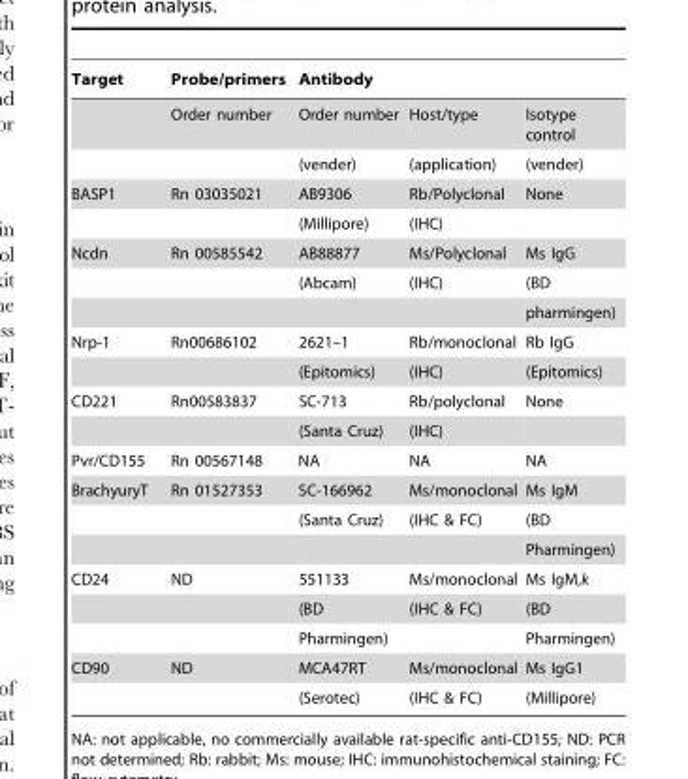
<table><thead><tr><td rowspan="2">Target</td><td rowspan="2">Probe/primers Order number</td><td colspan="3">Antibody</td></tr><tr><td>Order number</td><td>Host/type</td><td>Isotype control</td></tr></thead><tbody><tr><td></td><td></td><td>(vender)</td><td>(application)</td><td>(vender)</td></tr><tr><td rowspan="2">BASP1</td><td>Rn 03035021</td><td>AB9306</td><td>Rb/Polyclonal</td><td>None</td></tr><tr><td></td><td>(Millipore)</td><td>(IHC)</td><td></td></tr><tr><td rowspan="3">Ncdn</td><td>Rn 00585542</td><td>AB88877</td><td>Ms/Polyclonal</td><td>Ms IgG</td></tr><tr><td></td><td>(Abcam)</td><td>(IHC)</td><td>(BD</td></tr><tr><td></td><td></td><td></td><td>pharmingen)</td></tr><tr><td rowspan="2">Nrp-1</td><td>Rn00686102</td><td>2621–1</td><td>Rb/monoclonal</td><td>Rb IgG</td></tr><tr><td></td><td>(Epitomics)</td><td>(IHC)</td><td>(Epitomics)</td></tr><tr><td rowspan="2">CD221</td><td>Rn00583837</td><td>SC-713</td><td>Rb/polyclonal</td><td>None</td></tr><tr><td></td><td>(Santa Cruz)</td><td>(IHC)</td><td></td></tr><tr><td>Pvr/CD155</td><td>Rn 00567148</td><td>NA</td><td>NA</td><td>NA</td></tr><tr><td rowspan="3">BrachyuryT</td><td>Rn 01527353</td><td>SC-166962</td><td>Ms/monoclonal</td><td>Ms IgM</td></tr><tr><td></td><td>(Santa Cruz)</td><td>(IHC &amp; FC)</td><td>(BD</td></tr><tr><td></td><td></td><td></td><td>Pharmingen)</td></tr><tr><td rowspan="3">CD24</td><td>ND</td><td>551133</td><td>Ms/monoclonal</td><td>Ms IgM,k</td></tr><tr><td></td><td>(BD</td><td>(IHC &amp; FC)</td><td>(BD</td></tr><tr><td></td><td>Pharmingen)</td><td></td><td>Pharmingen)</td></tr><tr><td rowspan="2">CD90</td><td>ND</td><td>MCA47RT</td><td>Ms/monoclonal</td><td>Ms IgG1</td></tr><tr><td></td><td>(Serotec)</td><td>(IHC &amp; FC)</td><td>(Millipore)</td></tr></tbody></table>